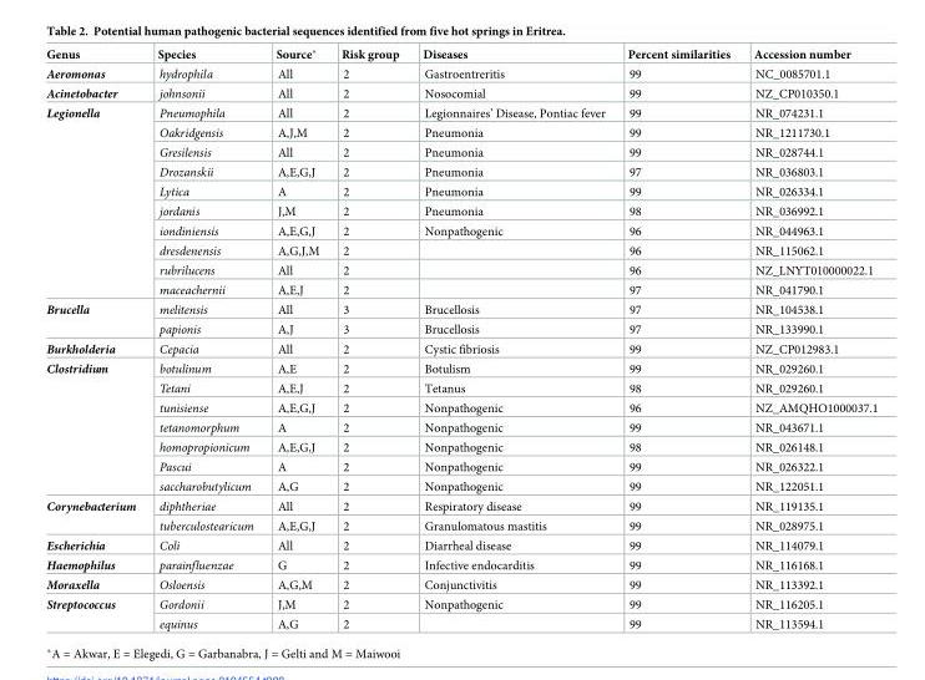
<table><thead><tr><td>Genus</td><td>Species</td><td>Source*</td><td>Risk group</td><td>Diseases</td><td>Percent similarities</td><td>Accession number</td></tr></thead><tbody><tr><td>Aeromonas</td><td>hydrophila</td><td>All</td><td>2</td><td>Gastroentreritis</td><td>99</td><td>NC_0085701.1</td></tr><tr><td>Acinetobacter</td><td>johnsonii</td><td>All</td><td>2</td><td>Nosocomial</td><td>99</td><td>NZ_CP010350.1</td></tr><tr><td rowspan="10">Legionella</td><td>Pneumophila</td><td>All</td><td>2</td><td>Legionnaires’ Disease, Pontiac fever</td><td>99</td><td>NR_074231.1</td></tr><tr><td>Oakridgensis</td><td>A,J,M</td><td>2</td><td>Pneumonia</td><td>99</td><td>NR_1211730.1</td></tr><tr><td>Gresilensis</td><td>All</td><td>2</td><td>Pneumonia</td><td>99</td><td>NR_028744.1</td></tr><tr><td>Drozanskii</td><td>A,E,G,J</td><td>2</td><td>Pneumonia</td><td>97</td><td>NR_036803.1</td></tr><tr><td>Lytica</td><td>A</td><td>2</td><td>Pneumonia</td><td>99</td><td>NR_026334.1</td></tr><tr><td>jordanis</td><td>J,M</td><td>2</td><td>Pneumonia</td><td>98</td><td>NR_036992.1</td></tr><tr><td>iondiniensis</td><td>A,E,G,J</td><td>2</td><td>Nonpathogenic</td><td>96</td><td>NR_044963.1</td></tr><tr><td>dresdenensis</td><td>A,G,J,M</td><td>2</td><td></td><td>96</td><td>NR_115062.1</td></tr><tr><td>rubrilucens</td><td>All</td><td>2</td><td></td><td>96</td><td>NZ_LNYT010000022.1</td></tr><tr><td>maceachernii</td><td>A,E,J</td><td>2</td><td></td><td>97</td><td>NR_041790.1</td></tr><tr><td rowspan="2">Brucella</td><td>melitensis</td><td>All</td><td>3</td><td>Brucellosis</td><td>97</td><td>NR_104538.1</td></tr><tr><td>papionis</td><td>A,J</td><td>3</td><td>Brucellosis</td><td>97</td><td>NR_133990.1</td></tr><tr><td>Burkholderia</td><td>Cepacia</td><td>All</td><td>2</td><td>Cystic fibriosis</td><td>99</td><td>NZ_CP012983.1</td></tr><tr><td rowspan="7">Clostridium</td><td>botulinum</td><td>A,E</td><td>2</td><td>Botulism</td><td>99</td><td>NR_029260.1</td></tr><tr><td>Tetani</td><td>A,E,J</td><td>2</td><td>Tetanus</td><td>98</td><td>NR_029260.1</td></tr><tr><td>tunisiense</td><td>A,E,G,J</td><td>2</td><td>Nonpathogenic</td><td>96</td><td>NZ_AMQHO1000037.1</td></tr><tr><td>tetanomorphum</td><td>A</td><td>2</td><td>Nonpathogenic</td><td>99</td><td>NR_043671.1</td></tr><tr><td>homopropionicum</td><td>A,E,G,J</td><td>2</td><td>Nonpathogenic</td><td>98</td><td>NR_026148.1</td></tr><tr><td>Pascui</td><td>A</td><td>2</td><td>Nonpathogenic</td><td>99</td><td>NR_026322.1</td></tr><tr><td>saccharobutylicum</td><td>A,G</td><td>2</td><td>Nonpathogenic</td><td>99</td><td>NR_122051.1</td></tr><tr><td rowspan="2">Corynebacterium</td><td>diphtheriae</td><td>All</td><td>2</td><td>Respiratory disease</td><td>99</td><td>NR_119135.1</td></tr><tr><td>tuberculostearicum</td><td>A,E,G,J</td><td>2</td><td>Granulomatous mastitis</td><td>99</td><td>NR_028975.1</td></tr><tr><td>Escherichia</td><td>Coli</td><td>All</td><td>2</td><td>Diarrheal disease</td><td>99</td><td>NR_114079.1</td></tr><tr><td>Haemophilus</td><td>parainfluenzae</td><td>G</td><td>2</td><td>Infective endocarditis</td><td>99</td><td>NR_116168.1</td></tr><tr><td>Moraxella</td><td>Osloensis</td><td>A,G,M</td><td>2</td><td>Conjunctivitis</td><td>99</td><td>NR_113392.1</td></tr><tr><td rowspan="2">Streptococcus</td><td>Gordonii</td><td>J,M</td><td>2</td><td>Nonpathogenic</td><td>99</td><td>NR_116205.1</td></tr><tr><td>equinus</td><td>A,G</td><td>2</td><td></td><td>99</td><td>NR_113594.1</td></tr></tbody></table>